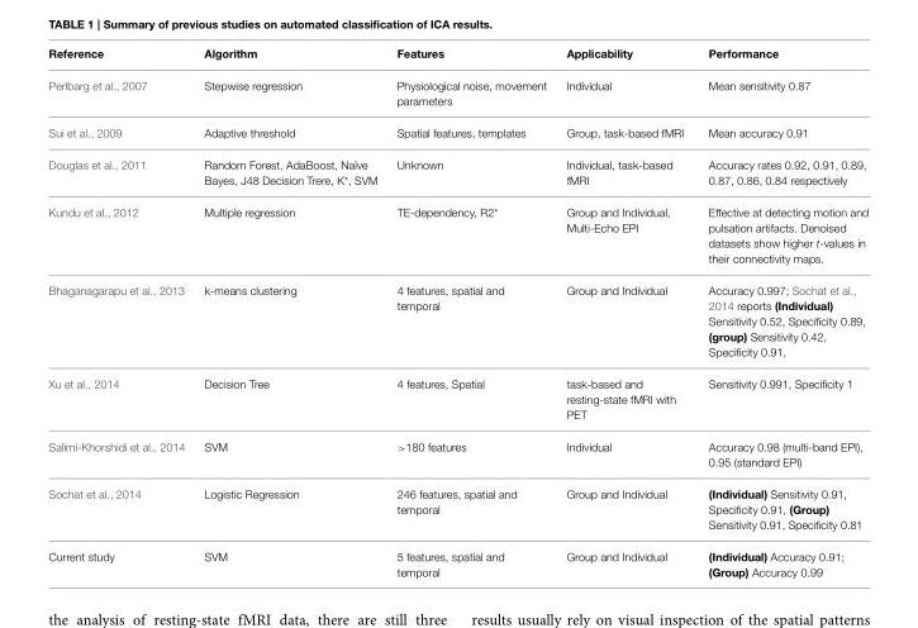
<table><thead><tr><td>Reference</td><td>Algorithm</td><td>Features</td><td>Applicability</td><td>Performance</td></tr></thead><tbody><tr><td>Perlbarg et al., 2007</td><td>Stepwise regression</td><td>Physiological noise, movement parameters</td><td>Individual</td><td>Mean sensitivity 0.87</td></tr><tr><td>Sui et al., 2009</td><td>Adaptive threshold</td><td>Spatial features, templates</td><td>Group, task-based fMRI</td><td>Mean accuracy 0.91</td></tr><tr><td>Douglas et al., 2011</td><td>Random Forest, AdaBoost, Naïve Bayes, J48 Decision Trere, K*, SVM</td><td>Unknown</td><td>Individual, task-based fMRI</td><td>Accuracy rates 0.92, 0.91, 0.89, 0.87, 0.86, 0.84 respectively</td></tr><tr><td>Kundu et al., 2012</td><td>Multiple regression</td><td>TE-dependency, R2*</td><td>Group and Individual, Multi-Echo EPI</td><td>Effective at detecting motion and pulsation artifacts. Denoised datasets show higher t-values in their connectivity maps.</td></tr><tr><td>Bhaganagarapu et al., 2013</td><td>k-means clustering</td><td>4 features, spatial and temporal</td><td>Group and Individual</td><td>Accuracy 0.997; Sochat et al., 2014 reports (Individual) Sensitivity 0.52, Specificity 0.89, (group) Sensitivity 0.42, Specificity 0.91,</td></tr><tr><td>Xu et al., 2014</td><td>Decision Tree</td><td>4 features, Spatial</td><td>task-based and resting-state fMRI with PET</td><td>Sensitivity 0.991, Specificity 1</td></tr><tr><td>Salimi-Khorshidi et al., 2014</td><td>SVM</td><td>&gt;180 features</td><td>Individual</td><td>Accuracy 0.98 (multi-band EPI), 0.95 (standard EPI)</td></tr><tr><td>Sochat et al., 2014</td><td>Logistic Regression</td><td>246 features, spatial and temporal</td><td>Group and Individual</td><td>(Individual) Sensitivity 0.91, Specificity 0.91, (Group) Sensitivity 0.91, Specificity 0.81</td></tr><tr><td>Current study</td><td>SVM</td><td>5 features, spatial and temporal</td><td>Group and Individual</td><td>(Individual) Accuracy 0.91; (Group) Accuracy 0.99</td></tr></tbody></table>